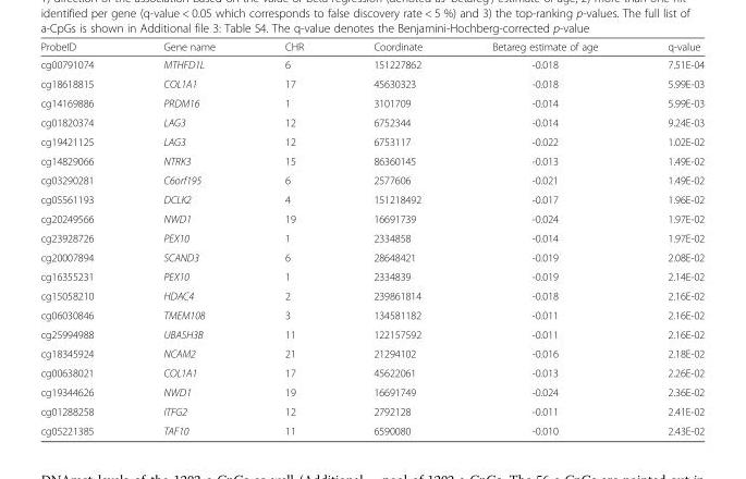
<table><thead><tr><td>ProbeID</td><td>Gene name</td><td>CHR</td><td>Coordinate</td><td>Betareg estimate of age</td><td>q-value</td></tr></thead><tbody><tr><td>cg00791074</td><td>MTHFD1L</td><td>6</td><td>151227862</td><td>-0.018</td><td>7.51E-04</td></tr><tr><td>cg18618815</td><td>COL1A1</td><td>17</td><td>45630323</td><td>-0.018</td><td>5.99E-03</td></tr><tr><td>cg14169886</td><td>PRDM16</td><td>1</td><td>3101709</td><td>-0.014</td><td>5.99E-03</td></tr><tr><td>cg01820374</td><td>LAG3</td><td>12</td><td>6752344</td><td>-0.014</td><td>9.24E-03</td></tr><tr><td>cg19421125</td><td>LAG3</td><td>12</td><td>6753117</td><td>-0.022</td><td>1.02E-02</td></tr><tr><td>cg14829066</td><td>NTRK3</td><td>15</td><td>86360145</td><td>-0.013</td><td>1.49E-02</td></tr><tr><td>cg03290281</td><td>C6orf195</td><td>6</td><td>2577606</td><td>-0.021</td><td>1.49E-02</td></tr><tr><td>cg05561193</td><td>DCLK2</td><td>4</td><td>151218492</td><td>-0.017</td><td>1.96E-02</td></tr><tr><td>cg20249566</td><td>NWD1</td><td>19</td><td>16691739</td><td>-0.024</td><td>1.97E-02</td></tr><tr><td>cg23928726</td><td>PEX10</td><td>1</td><td>2334858</td><td>-0.014</td><td>1.97E-02</td></tr><tr><td>cg20007894</td><td>SCAND3</td><td>6</td><td>28648421</td><td>-0.019</td><td>2.08E-02</td></tr><tr><td>cg16355231</td><td>PEX10</td><td>1</td><td>2334839</td><td>-0.019</td><td>2.14E-02</td></tr><tr><td>cg15058210</td><td>HDAC4</td><td>2</td><td>239861814</td><td>-0.018</td><td>2.16E-02</td></tr><tr><td>cg06030846</td><td>TMEM108</td><td>3</td><td>134581182</td><td>-0.011</td><td>2.16E-02</td></tr><tr><td>cg25994988</td><td>UBASH3B</td><td>11</td><td>122157592</td><td>-0.011</td><td>2.16E-02</td></tr><tr><td>cg18345924</td><td>NCAM2</td><td>21</td><td>21294102</td><td>-0.016</td><td>2.18E-02</td></tr><tr><td>cg00638021</td><td>COL1A1</td><td>17</td><td>45622061</td><td>-0.013</td><td>2.26E-02</td></tr><tr><td>cg19344626</td><td>NWD1</td><td>19</td><td>16691749</td><td>-0.024</td><td>2.36E-02</td></tr><tr><td>cg01288258</td><td>ITFG2</td><td>12</td><td>2792128</td><td>-0.011</td><td>2.41E-02</td></tr><tr><td>cg05221385</td><td>TAF10</td><td>11</td><td>6590080</td><td>-0.010</td><td>2.43E-02</td></tr></tbody></table>